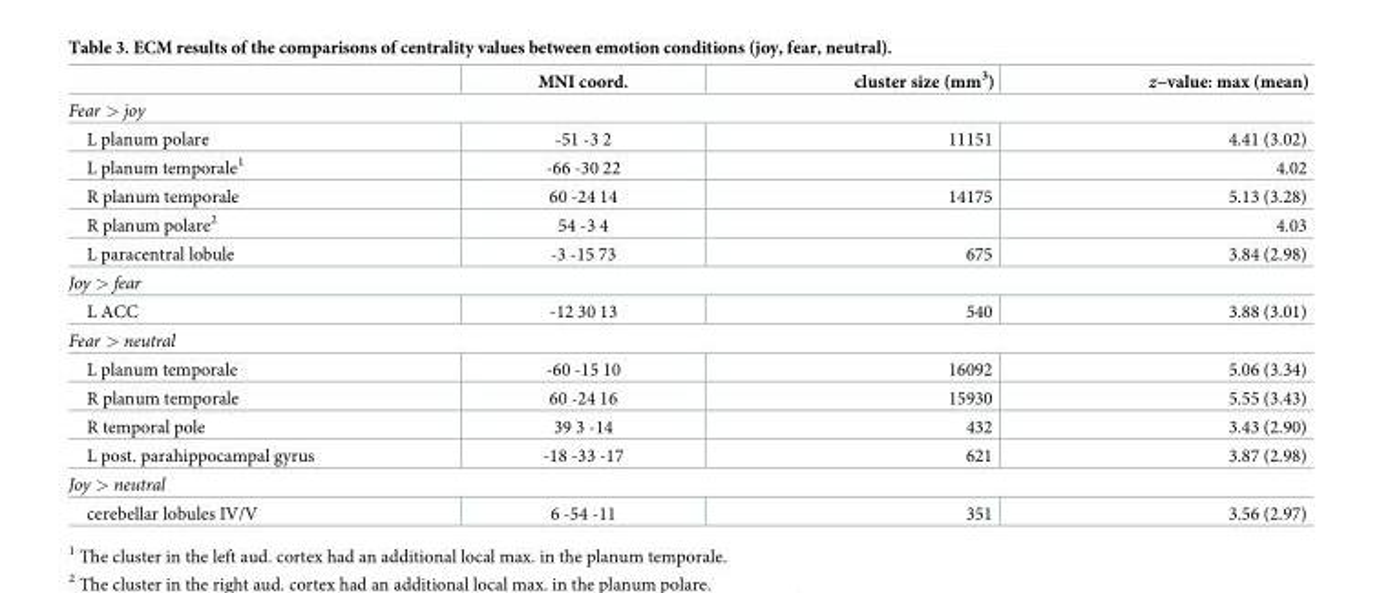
<table><thead><tr><td></td><td>MNI coord.</td><td>cluster size (mm<sup>3</sup>)</td><td>z−value: max (mean)</td></tr></thead><tbody><tr><td colspan="4">Fear &gt; joy</td></tr><tr><td>L planum polare</td><td>-51 -3 2</td><td>11151</td><td>4.41 (3.02)</td></tr><tr><td>L planum temporale<sup>1</sup></td><td>-66 -30 22</td><td></td><td>4.02</td></tr><tr><td>R planum temporale</td><td>60 -24 14</td><td>14175</td><td>5.13 (3.28)</td></tr><tr><td>R planum polare<sup>2</sup></td><td>54 -3 4</td><td></td><td>4.03</td></tr><tr><td>L paracentral lobule</td><td>-3 -15 73</td><td>675</td><td>3.84 (2.98)</td></tr><tr><td colspan="4">Joy &gt; fear</td></tr><tr><td>L ACC</td><td>-12 30 13</td><td>540</td><td>3.88 (3.01)</td></tr><tr><td colspan="4">Fear &gt; neutral</td></tr><tr><td>L planum temporale</td><td>-60 -15 10</td><td>16092</td><td>5.06 (3.34)</td></tr><tr><td>R planum temporale</td><td>60 -24 16</td><td>15930</td><td>5.55 (3.43)</td></tr><tr><td>R temporal pole</td><td>39 3 -14</td><td>432</td><td>3.43 (2.90)</td></tr><tr><td>L post. parahippocampal gyrus</td><td>-18 -33 -17</td><td>621</td><td>3.87 (2.98)</td></tr><tr><td colspan="4">Joy &gt; neutral</td></tr><tr><td>cerebellar lobules IV/V</td><td>6 -54 -11</td><td>351</td><td>3.56 (2.97)</td></tr></tbody></table>